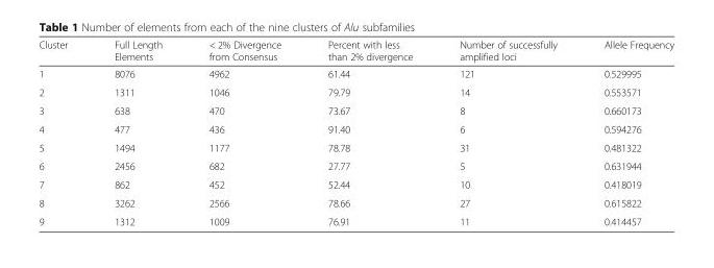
<table><thead><tr><td>Cluster</td><td>Full Length Elements</td><td>&lt; 2% Divergence from Consensus</td><td>Percent with less than 2% divergence</td><td>Number of successfully amplified loci</td><td>Allele Frequency</td></tr></thead><tbody><tr><td>1</td><td>8076</td><td>4962</td><td>61.44</td><td>121</td><td>0.529995</td></tr><tr><td>2</td><td>1311</td><td>1046</td><td>79.79</td><td>14</td><td>0.553571</td></tr><tr><td>3</td><td>638</td><td>470</td><td>73.67</td><td>8</td><td>0.660173</td></tr><tr><td>4</td><td>477</td><td>436</td><td>91.40</td><td>6</td><td>0.594276</td></tr><tr><td>5</td><td>1494</td><td>1177</td><td>78.78</td><td>31</td><td>0.481322</td></tr><tr><td>6</td><td>2456</td><td>682</td><td>27.77</td><td>5</td><td>0.631944</td></tr><tr><td>7</td><td>862</td><td>452</td><td>52.44</td><td>10</td><td>0.418019</td></tr><tr><td>8</td><td>3262</td><td>2566</td><td>78.66</td><td>27</td><td>0.615822</td></tr><tr><td>9</td><td>1312</td><td>1009</td><td>76.91</td><td>11</td><td>0.414457</td></tr></tbody></table>